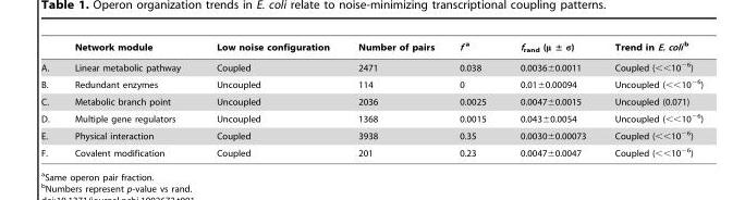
<table><thead><tr><td></td><td>Network module</td><td>Low noise configuration</td><td>Number of pairs</td><td>f a</td><td>f<sub>rand</sub> (μ ± σ)</td><td>Trend in E. coli b</td></tr></thead><tbody><tr><td>A.</td><td>Linear metabolic pathway</td><td>Coupled</td><td>2471</td><td>0.038</td><td>0.0036±0.0011</td><td>Coupled (&lt;&lt;10<sup>−6</sup>)</td></tr><tr><td>B.</td><td>Redundant enzymes</td><td>Uncoupled</td><td>114</td><td>0</td><td>0.01±0.00094</td><td>Uncoupled (&lt;&lt;10<sup>−6</sup>)</td></tr><tr><td>C.</td><td>Metabolic branch point</td><td>Uncoupled</td><td>2036</td><td>0.0025</td><td>0.0047±0.0015</td><td>Uncoupled (0.071)</td></tr><tr><td>D.</td><td>Multiple gene regulators</td><td>Uncoupled</td><td>1368</td><td>0.0015</td><td>0.043±0.0054</td><td>Uncoupled (&lt;&lt;10<sup>−6</sup>)</td></tr><tr><td>E.</td><td>Physical interaction</td><td>Coupled</td><td>3938</td><td>0.35</td><td>0.0030±0.00073</td><td>Coupled (&lt;&lt;10<sup>−6</sup>)</td></tr><tr><td>F.</td><td>Covalent modification</td><td>Coupled</td><td>201</td><td>0.23</td><td>0.0047±0.0047</td><td>Coupled (&lt;&lt;10<sup>−6</sup>)</td></tr></tbody></table>